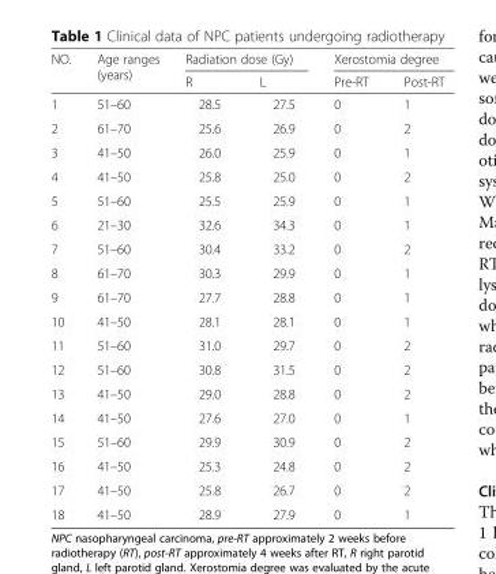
<table><thead><tr><td rowspan="2">NO.</td><td rowspan="2">Age ranges (years)</td><td colspan="2">Radiation dose (Gy)</td><td colspan="2">Xerostomia degree</td></tr><tr><td>R</td><td>L</td><td>Pre-RT</td><td>Post-RT</td></tr></thead><tbody><tr><td>1</td><td>51–60</td><td>28.5</td><td>27.5</td><td>0</td><td>1</td></tr><tr><td>2</td><td>61–70</td><td>25.6</td><td>26.9</td><td>0</td><td>2</td></tr><tr><td>3</td><td>41–50</td><td>26.0</td><td>25.9</td><td>0</td><td>1</td></tr><tr><td>4</td><td>41–50</td><td>25.8</td><td>25.0</td><td>0</td><td>2</td></tr><tr><td>5</td><td>51–60</td><td>25.5</td><td>25.9</td><td>0</td><td>1</td></tr><tr><td>6</td><td>21–30</td><td>32.6</td><td>34.3</td><td>0</td><td>1</td></tr><tr><td>7</td><td>51–60</td><td>30.4</td><td>33.2</td><td>0</td><td>2</td></tr><tr><td>8</td><td>61–70</td><td>30.3</td><td>29.9</td><td>0</td><td>1</td></tr><tr><td>9</td><td>61–70</td><td>27.7</td><td>28.8</td><td>0</td><td>1</td></tr><tr><td>10</td><td>41–50</td><td>28.1</td><td>28.1</td><td>0</td><td>1</td></tr><tr><td>11</td><td>51–60</td><td>31.0</td><td>29.7</td><td>0</td><td>2</td></tr><tr><td>12</td><td>51–60</td><td>30.8</td><td>31.5</td><td>0</td><td>2</td></tr><tr><td>13</td><td>41–50</td><td>29.0</td><td>28.8</td><td>0</td><td>2</td></tr><tr><td>14</td><td>41–50</td><td>27.6</td><td>27.0</td><td>0</td><td>1</td></tr><tr><td>15</td><td>51–60</td><td>29.9</td><td>30.9</td><td>0</td><td>2</td></tr><tr><td>16</td><td>41–50</td><td>25.3</td><td>24.8</td><td>0</td><td>2</td></tr><tr><td>17</td><td>41–50</td><td>25.8</td><td>26.7</td><td>0</td><td>2</td></tr><tr><td>18</td><td>41–50</td><td>28.9</td><td>27.9</td><td>0</td><td>1</td></tr></tbody></table>